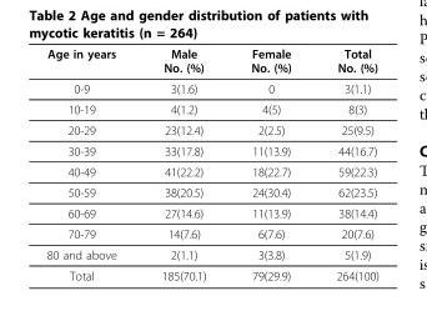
<table><thead><tr><td>Age in years</td><td>Male No. (%)</td><td>Female No. (%)</td><td>Total No. (%)</td></tr></thead><tbody><tr><td>0-9</td><td>3(1.6)</td><td>0</td><td>3(1.1)</td></tr><tr><td>10-19</td><td>4(1.2)</td><td>4(5)</td><td>8(3)</td></tr><tr><td>20-29</td><td>23(12.4)</td><td>2(2.5)</td><td>25(9.5)</td></tr><tr><td>30-39</td><td>33(17.8)</td><td>11(13.9)</td><td>44(16.7)</td></tr><tr><td>40-49</td><td>41(22.2)</td><td>18(22.7)</td><td>59(22.3)</td></tr><tr><td>50-59</td><td>38(20.5)</td><td>24(30.4)</td><td>62(23.5)</td></tr><tr><td>60-69</td><td>27(14.6)</td><td>11(13.9)</td><td>38(14.4)</td></tr><tr><td>70-79</td><td>14(7.6)</td><td>6(7.6)</td><td>20(7.6)</td></tr><tr><td>80 and above</td><td>2(1.1)</td><td>3(3.8)</td><td>5(1.9)</td></tr><tr><td>Total</td><td>185(70.1)</td><td>79(29.9)</td><td>264(100)</td></tr></tbody></table>